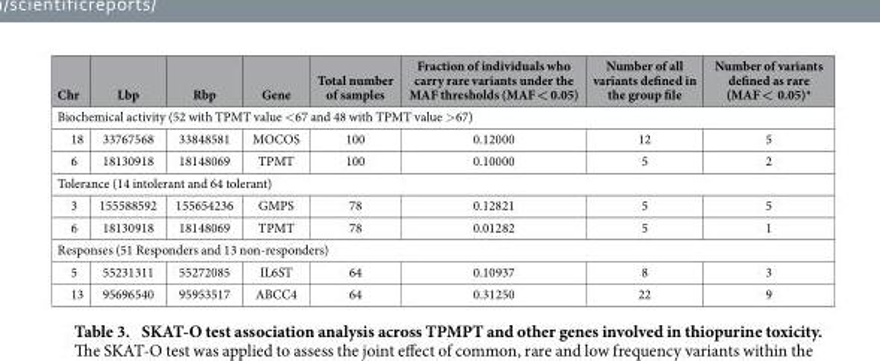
<table><thead><tr><td>Chr</td><td>Lbp</td><td>Rbp</td><td>Gene</td><td>Total number of samples</td><td>Fraction of individuals who carry rare variants under the MAF thresholds (MAF &lt; 0.05)</td><td>Number of all variants defined in the group file</td><td>Number of variants defined as rare (MAF &lt; 0.05)*</td></tr></thead><tbody><tr><td colspan="8">Biochemical activity (52 with TPMT value &lt; 67 and 48 with TPMT value &gt; 67)</td></tr><tr><td>18</td><td>33767568</td><td>33848581</td><td>MOCOS</td><td>100</td><td>0.12000</td><td>12</td><td>5</td></tr><tr><td>6</td><td>18130918</td><td>18148069</td><td>TPMT</td><td>100</td><td>0.10000</td><td>5</td><td>2</td></tr><tr><td colspan="8">Tolerance (14 intolerant and 64 tolerant)</td></tr><tr><td>3</td><td>155588592</td><td>155654236</td><td>GMPS</td><td>78</td><td>0.12821</td><td>5</td><td>5</td></tr><tr><td>6</td><td>18130918</td><td>18148069</td><td>TPMT</td><td>78</td><td>0.01282</td><td>5</td><td>1</td></tr><tr><td colspan="8">Responses (51 Responders and 13 non-responders)</td></tr><tr><td>5</td><td>55231311</td><td>55272085</td><td>IL6ST</td><td>64</td><td>0.10937</td><td>8</td><td>3</td></tr><tr><td>13</td><td>95696540</td><td>95953517</td><td>ABCC4</td><td>64</td><td>0.31250</td><td>22</td><td>9</td></tr></tbody></table>